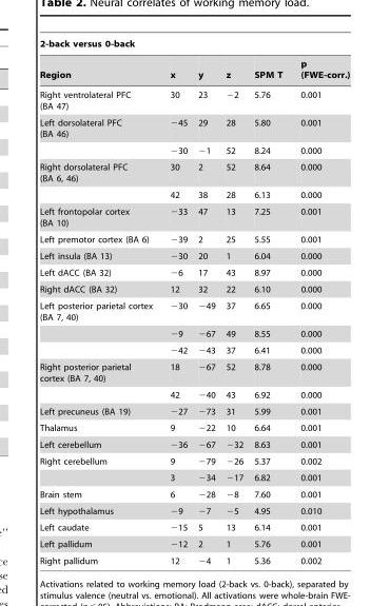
<table><thead><tr><td colspan="6">2-back versus 0-back</td></tr><tr><td>Region</td><td>x</td><td>y</td><td>z</td><td>SPM T</td><td>p (FWE-corr.)</td></tr></thead><tbody><tr><td>Right ventrolateral PFC (BA 47)</td><td>30</td><td>23</td><td>−2</td><td>5.76</td><td>0.001</td></tr><tr><td rowspan="2">Left dorsolateral PFC (BA 46)</td><td>−45</td><td>29</td><td>28</td><td>5.80</td><td>0.001</td></tr><tr><td>−30</td><td>−1</td><td>52</td><td>8.24</td><td>0.000</td></tr><tr><td rowspan="2">Right dorsolateral PFC (BA 6, 46)</td><td>30</td><td>2</td><td>52</td><td>8.64</td><td>0.000</td></tr><tr><td>42</td><td>38</td><td>28</td><td>6.13</td><td>0.000</td></tr><tr><td>Left frontopolar cortex (BA 10)</td><td>−33</td><td>47</td><td>13</td><td>7.25</td><td>0.001</td></tr><tr><td>Left premotor cortex (BA 6)</td><td>−39</td><td>2</td><td>25</td><td>5.55</td><td>0.001</td></tr><tr><td>Left insula (BA 13)</td><td>−30</td><td>20</td><td>1</td><td>6.04</td><td>0.000</td></tr><tr><td>Left dACC (BA 32)</td><td>−6</td><td>17</td><td>43</td><td>8.97</td><td>0.000</td></tr><tr><td>Right dACC (BA 32)</td><td>12</td><td>32</td><td>22</td><td>6.10</td><td>0.000</td></tr><tr><td rowspan="3">Left posterior parietal cortex (BA 7, 40)</td><td>−30</td><td>−49</td><td>37</td><td>6.65</td><td>0.000</td></tr><tr><td>−9</td><td>−67</td><td>49</td><td>8.55</td><td>0.000</td></tr><tr><td>−42</td><td>−43</td><td>37</td><td>6.41</td><td>0.000</td></tr><tr><td rowspan="2">Right posterior parietal cortex (BA 7, 40)</td><td>18</td><td>−67</td><td>52</td><td>8.78</td><td>0.000</td></tr><tr><td>42</td><td>−40</td><td>43</td><td>6.92</td><td>0.000</td></tr><tr><td>Left precuneus (BA 19)</td><td>−27</td><td>−73</td><td>31</td><td>5.99</td><td>0.001</td></tr><tr><td>Thalamus</td><td>9</td><td>−22</td><td>10</td><td>6.64</td><td>0.001</td></tr><tr><td>Left cerebellum</td><td>−36</td><td>−67</td><td>−32</td><td>8.63</td><td>0.001</td></tr><tr><td rowspan="2">Right cerebellum</td><td>9</td><td>−79</td><td>−26</td><td>5.37</td><td>0.002</td></tr><tr><td>3</td><td>−34</td><td>−17</td><td>6.82</td><td>0.001</td></tr><tr><td>Brain stem</td><td>6</td><td>−28</td><td>−8</td><td>7.60</td><td>0.001</td></tr><tr><td>Left hypothalamus</td><td>−9</td><td>−7</td><td>−5</td><td>4.95</td><td>0.010</td></tr><tr><td>Left caudate</td><td>−15</td><td>5</td><td>13</td><td>6.14</td><td>0.001</td></tr><tr><td>Left pallidum</td><td>−12</td><td>2</td><td>1</td><td>5.76</td><td>0.001</td></tr><tr><td>Right pallidum</td><td>12</td><td>−4</td><td>1</td><td>5.36</td><td>0.002</td></tr></tbody></table>